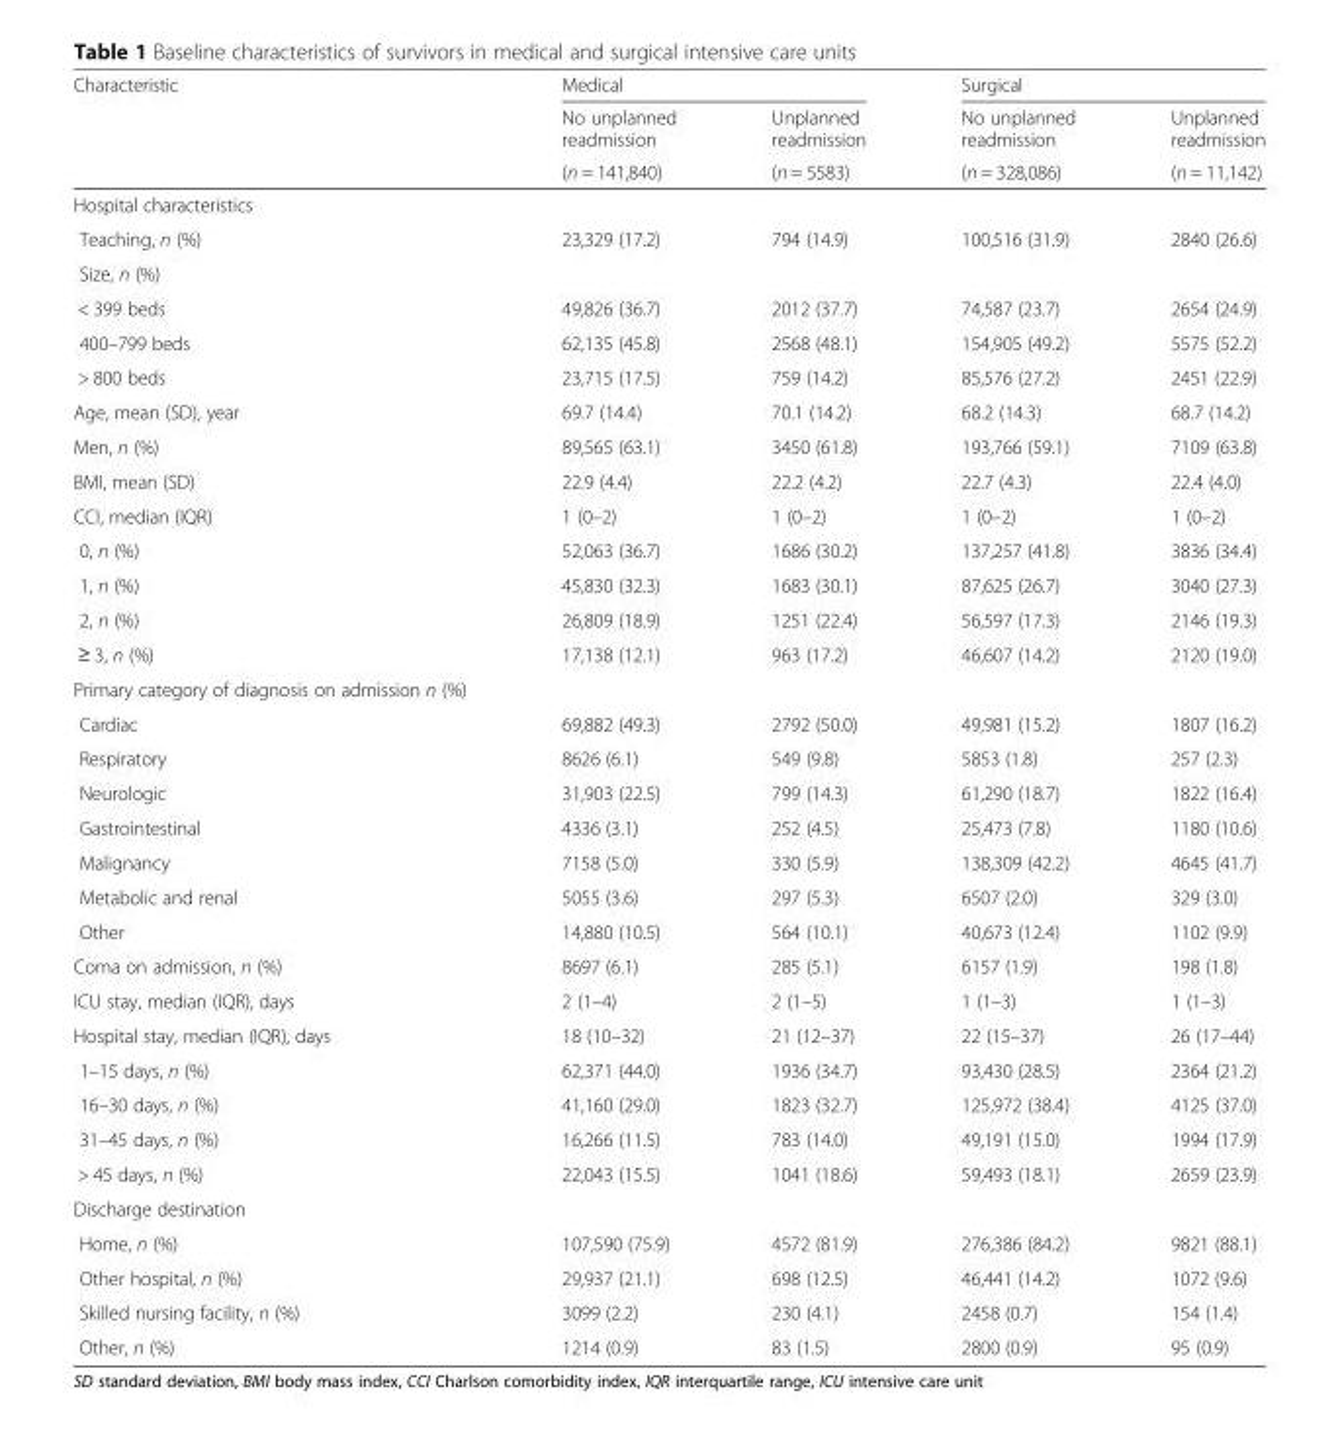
<table><thead><tr><td rowspan="3">Characteristic</td><td colspan="2">Medical</td><td colspan="2">Surgical</td></tr><tr><td rowspan="2">No unplanned readmission (n = 141,840)</td><td rowspan="2">Unplanned readmission (n = 5583)</td><td rowspan="2">No unplanned readmission (n = 328,086)</td><td rowspan="2">Unplanned readmission (n = 11,142)</td></tr><tr></tr></thead><tbody><tr><td colspan="5">Hospital characteristics</td></tr><tr><td>Teaching, n (%)</td><td>23,329 (17.2)</td><td>794 (14.9)</td><td>100,516 (31.9)</td><td>2840 (26.6)</td></tr><tr><td colspan="5">Size, n (%)</td></tr><tr><td>&lt; 399 beds</td><td>49,826 (36.7)</td><td>2012 (37.7)</td><td>74,587 (23.7)</td><td>2654 (24.9)</td></tr><tr><td>400–799 beds</td><td>62,135 (45.8)</td><td>2568 (48.1)</td><td>154,905 (49.2)</td><td>5575 (52.2)</td></tr><tr><td>&gt; 800 beds</td><td>23,715 (17.5)</td><td>759 (14.2)</td><td>85,576 (27.2)</td><td>2451 (22.9)</td></tr><tr><td>Age, mean (SD), year</td><td>69.7 (14.4)</td><td>70.1 (14.2)</td><td>68.2 (14.3)</td><td>68.7 (14.2)</td></tr><tr><td>Men, n (%)</td><td>89,565 (63.1)</td><td>3450 (61.8)</td><td>193,766 (59.1)</td><td>7109 (63.8)</td></tr><tr><td>BMI, mean (SD)</td><td>22.9 (4.4)</td><td>22.2 (4.2)</td><td>22.7 (4.3)</td><td>22.4 (4.0)</td></tr><tr><td>CCI, median (IQR)</td><td>1 (0–2)</td><td>1 (0–2)</td><td>1 (0–2)</td><td>1 (0–2)</td></tr><tr><td>0, n (%)</td><td>52,063 (36.7)</td><td>1686 (30.2)</td><td>137,257 (41.8)</td><td>3836 (34.4)</td></tr><tr><td>1, n (%)</td><td>45,830 (32.3)</td><td>1683 (30.1)</td><td>87,625 (26.7)</td><td>3040 (27.3)</td></tr><tr><td>2, n (%)</td><td>26,809 (18.9)</td><td>1251 (22.4)</td><td>56,597 (17.3)</td><td>2146 (19.3)</td></tr><tr><td>≥ 3, n (%)</td><td>17,138 (12.1)</td><td>963 (17.2)</td><td>46,607 (14.2)</td><td>2120 (19.0)</td></tr><tr><td colspan="5">Primary category of diagnosis on admission n (%)</td></tr><tr><td>Cardiac</td><td>69,882 (49.3)</td><td>2792 (50.0)</td><td>49,981 (15.2)</td><td>1807 (16.2)</td></tr><tr><td>Respiratory</td><td>8626 (6.1)</td><td>549 (9.8)</td><td>5853 (1.8)</td><td>257 (2.3)</td></tr><tr><td>Neurologic</td><td>31,903 (22.5)</td><td>799 (14.3)</td><td>61,290 (18.7)</td><td>1822 (16.4)</td></tr><tr><td>Gastrointestinal</td><td>4336 (3.1)</td><td>252 (4.5)</td><td>25,473 (7.8)</td><td>1180 (10.6)</td></tr><tr><td>Malignancy</td><td>7158 (5.0)</td><td>330 (5.9)</td><td>138,309 (42.2)</td><td>4645 (41.7)</td></tr><tr><td>Metabolic and renal</td><td>5055 (3.6)</td><td>297 (5.3)</td><td>6507 (2.0)</td><td>329 (3.0)</td></tr><tr><td>Other</td><td>14,880 (10.5)</td><td>564 (10.1)</td><td>40,673 (12.4)</td><td>1102 (9.9)</td></tr><tr><td>Coma on admission, n (%)</td><td>8697 (6.1)</td><td>285 (5.1)</td><td>6157 (1.9)</td><td>198 (1.8)</td></tr><tr><td>ICU stay, median (IQR), days</td><td>2 (1–4)</td><td>2 (1–5)</td><td>1 (1–3)</td><td>1 (1–3)</td></tr><tr><td>Hospital stay, median (IQR), days</td><td>18 (10–32)</td><td>21 (12–37)</td><td>22 (15–37)</td><td>26 (17–44)</td></tr><tr><td>1–15 days, n (%)</td><td>62,371 (44.0)</td><td>1936 (34.7)</td><td>93,430 (28.5)</td><td>2364 (21.2)</td></tr><tr><td>16–30 days, n (%)</td><td>41,160 (29.0)</td><td>1823 (32.7)</td><td>125,972 (38.4)</td><td>4125 (37.0)</td></tr><tr><td>31–45 days, n (%)</td><td>16,266 (11.5)</td><td>783 (14.0)</td><td>49,191 (15.0)</td><td>1994 (17.9)</td></tr><tr><td>&gt; 45 days, n (%)</td><td>22,043 (15.5)</td><td>1041 (18.6)</td><td>59,493 (18.1)</td><td>2659 (23.9)</td></tr><tr><td colspan="5">Discharge destination</td></tr><tr><td>Home, n (%)</td><td>107,590 (75.9)</td><td>4572 (81.9)</td><td>276,386 (84.2)</td><td>9821 (88.1)</td></tr><tr><td>Other hospital, n (%)</td><td>29,937 (21.1)</td><td>698 (12.5)</td><td>46,441 (14.2)</td><td>1072 (9.6)</td></tr><tr><td>Skilled nursing facility, n (%)</td><td>3099 (2.2)</td><td>230 (4.1)</td><td>2458 (0.7)</td><td>154 (1.4)</td></tr><tr><td>Other, n (%)</td><td>1214 (0.9)</td><td>83 (1.5)</td><td>2800 (0.9)</td><td>95 (0.9)</td></tr></tbody></table>